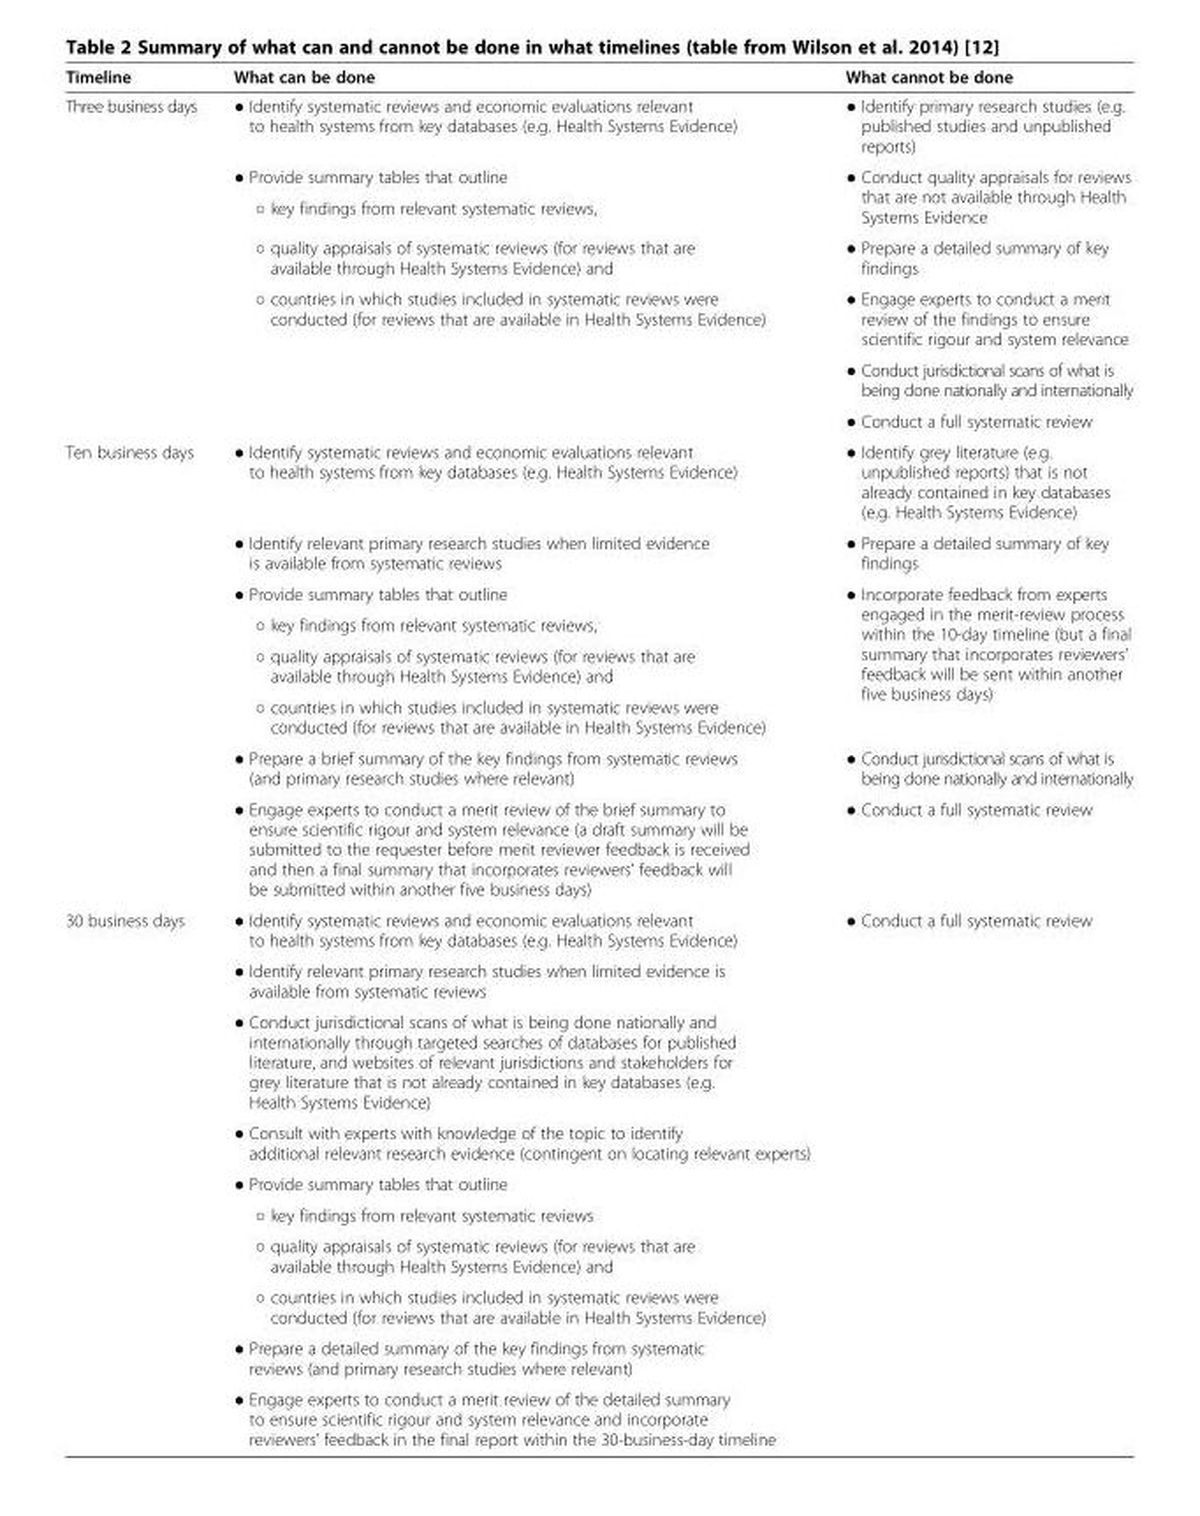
<table><thead><tr><td>Timeline</td><td>What can be done</td><td>What cannot be done</td></tr></thead><tbody><tr><td rowspan="7">Three business days</td><td>● Identify systematic reviews and economic evaluations relevant to health systems from key databases (e.g. Health Systems Evidence)</td><td>● Identify primary research studies (e.g. published studies and unpublished reports)</td></tr><tr><td>● Provide summary tables that outline</td><td rowspan="2">● Conduct quality appraisals for reviews that are not available through Health Systems Evidence</td></tr><tr><td>○ key findings from relevant systematic reviews,</td></tr><tr><td>○ quality appraisals of systematic reviews (for reviews that are available through Health Systems Evidence) and</td><td>● Prepare a detailed summary of key findings</td></tr><tr><td>○ countries in which studies included in systematic reviews were conducted (for reviews that are available in Health Systems Evidence)</td><td>● Engage experts to conduct a merit review of the findings to ensure scientific rigour and system relevance</td></tr><tr><td></td><td>● Conduct jurisdictional scans of what is being done nationally and internationally</td></tr><tr><td></td><td>● Conduct a full systematic review</td></tr><tr><td rowspan="8">Ten business days</td><td>● Identify systematic reviews and economic evaluations relevant to health systems from key databases (e.g. Health Systems Evidence)</td><td>● Identify grey literature (e.g. unpublished reports) that is not already contained in key databases (e.g. Health Systems Evidence)</td></tr><tr><td>● Identify relevant primary research studies when limited evidence is available from systematic reviews</td><td>● Prepare a detailed summary of key findings</td></tr><tr><td>● Provide summary tables that outline</td><td rowspan="4">● Incorporate feedback from experts engaged in the merit-review process within the 10-day timeline (but a final summary that incorporates reviewers’ feedback will be sent within another five business days)</td></tr><tr><td>○ key findings from relevant systematic reviews,</td></tr><tr><td>○ quality appraisals of systematic reviews (for reviews that are available through Health Systems Evidence) and</td></tr><tr><td>○ countries in which studies included in systematic reviews were conducted (for reviews that are available in Health Systems Evidence)</td></tr><tr><td>● Prepare a brief summary of the key findings from systematic reviews (and primary research studies where relevant)</td><td>● Conduct jurisdictional scans of what is being done nationally and internationally</td></tr><tr><td>● Engage experts to conduct a merit review of the brief summary to ensure scientific rigour and system relevance (a draft summary will be submitted to the requester before merit reviewer feedback is received and then a final summary that incorporates reviewers’ feedback will be submitted within another five business days)</td><td>● Conduct a full systematic review</td></tr><tr><td rowspan="10">30 business days</td><td>● Identify systematic reviews and economic evaluations relevant to health systems from key databases (e.g. Health Systems Evidence)</td><td>● Conduct a full systematic review</td></tr><tr><td>● Identify relevant primary research studies when limited evidence is available from systematic reviews</td><td></td></tr><tr><td>● Conduct jurisdictional scans of what is being done nationally and internationally through targeted searches of databases for published literature, and websites of relevant jurisdictions and stakeholders for grey literature that is not already contained in key databases (e.g. Health Systems Evidence)</td><td></td></tr><tr><td>● Consult with experts with knowledge of the topic to identify additional relevant research evidence (contingent on locating relevant experts)</td><td></td></tr><tr><td>● Provide summary tables that outline</td><td></td></tr><tr><td>○ key findings from relevant systematic reviews</td><td></td></tr><tr><td>○ quality appraisals of systematic reviews (for reviews that are available through Health Systems Evidence) and</td><td></td></tr><tr><td>○ countries in which studies included in systematic reviews were conducted (for reviews that are available in Health Systems Evidence)</td><td></td></tr><tr><td>● Prepare a detailed summary of the key findings from systematic reviews (and primary research studies where relevant)</td><td></td></tr><tr><td>● Engage experts to conduct a merit review of the detailed summary to ensure scientific rigour and system relevance and incorporate reviewers’ feedback in the final report within the 30-business-day timeline</td><td></td></tr></tbody></table>